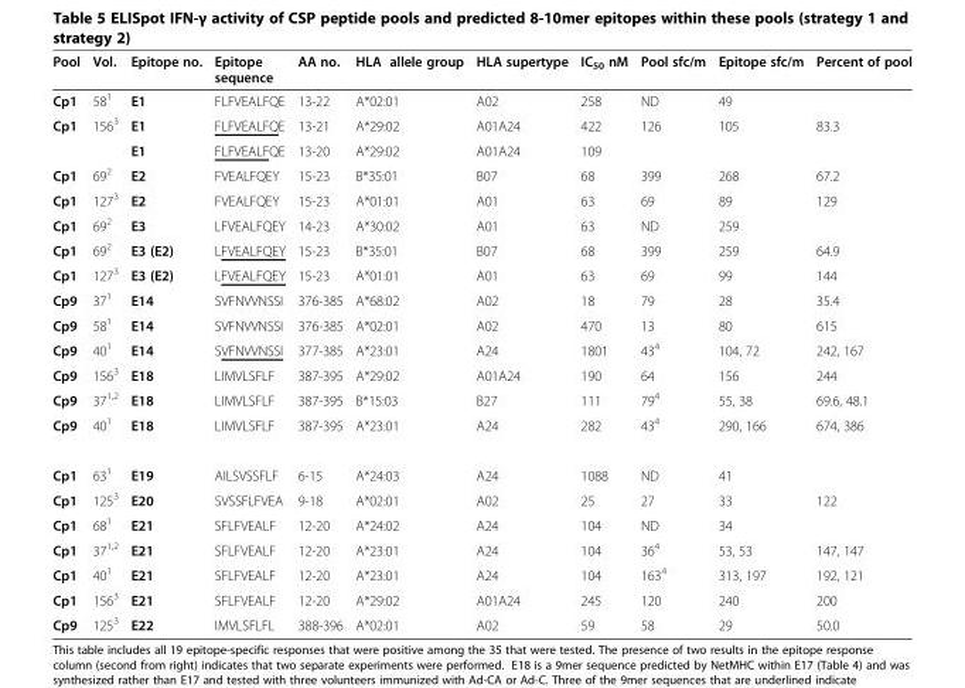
<table><thead><tr><td>Pool</td><td>Vol.</td><td>Epitope no.</td><td>Epitope sequence</td><td>AA no.</td><td>HLA allele group</td><td>HLA supertype</td><td>IC<sub>50</sub> nM</td><td>Pool sfc/m</td><td>Epitope sfc/m</td><td>Percent of pool</td></tr></thead><tbody><tr><td>Cp1</td><td>58<sup>1</sup></td><td>E1</td><td>FLFVEALFQE</td><td>13-22</td><td>A*02:01</td><td>A02</td><td>258</td><td>ND</td><td>49</td><td></td></tr><tr><td rowspan="2">Cp1</td><td>156<sup>3</sup></td><td>E1</td><td>FLFVEALFQE</td><td>13-21</td><td>A*29:02</td><td>A01A24</td><td>422</td><td>126</td><td>105</td><td>83.3</td></tr><tr><td></td><td>E1</td><td>FLFVEALFQE</td><td>13-20</td><td>A*29:02</td><td>A01A24</td><td>109</td><td></td><td></td><td></td></tr><tr><td>Cp1</td><td>69<sup>2</sup></td><td>E2</td><td>FVEALFQEY</td><td>15-23</td><td>B*35:01</td><td>B07</td><td>68</td><td>399</td><td>268</td><td>67.2</td></tr><tr><td>Cp1</td><td>127<sup>3</sup></td><td>E2</td><td>FVEALFQEY</td><td>15-23</td><td>A*01:01</td><td>A01</td><td>63</td><td>69</td><td>89</td><td>129</td></tr><tr><td>Cp1</td><td>69<sup>2</sup></td><td>E3</td><td>LFVEALFQEY</td><td>14-23</td><td>A*30:02</td><td>A01</td><td>63</td><td>ND</td><td>259</td><td></td></tr><tr><td>Cp1</td><td>69<sup>2</sup></td><td>E3 (E2)</td><td>LFVEALFQEY</td><td>15-23</td><td>B*35:01</td><td>B07</td><td>68</td><td>399</td><td>259</td><td>64.9</td></tr><tr><td>Cp1</td><td>127<sup>3</sup></td><td>E3 (E2)</td><td>LFVEALFQEY</td><td>15-23</td><td>A*01:01</td><td>A01</td><td>63</td><td>69</td><td>99</td><td>144</td></tr><tr><td>Cp9</td><td>37<sup>1</sup></td><td>E14</td><td>SVFNVVNSSI</td><td>376-385</td><td>A*68:02</td><td>A02</td><td>18</td><td>79</td><td>28</td><td>35.4</td></tr><tr><td>Cp9</td><td>58<sup>1</sup></td><td>E14</td><td>SVFNVVNSSI</td><td>376-385</td><td>A*02:01</td><td>A02</td><td>470</td><td>13</td><td>80</td><td>615</td></tr><tr><td>Cp9</td><td>40<sup>1</sup></td><td>E14</td><td>SVFNVVNSSI</td><td>377-385</td><td>A*23:01</td><td>A24</td><td>1801</td><td>43<sup>4</sup></td><td>104, 72</td><td>242, 167</td></tr><tr><td>Cp9</td><td>156<sup>3</sup></td><td>E18</td><td>LIMVLSFLF</td><td>387-395</td><td>A*29:02</td><td>A01A24</td><td>190</td><td>64</td><td>156</td><td>244</td></tr><tr><td>Cp9</td><td>37<sup>1,2</sup></td><td>E18</td><td>LIMVLSFLF</td><td>387-395</td><td>B*15:03</td><td>B27</td><td>111</td><td>79<sup>4</sup></td><td>55, 38</td><td>69.6, 48.1</td></tr><tr><td>Cp9</td><td>40<sup>1</sup></td><td>E18</td><td>LIMVLSFLF</td><td>387-395</td><td>A*23:01</td><td>A24</td><td>282</td><td>43<sup>4</sup></td><td>290, 166</td><td>674, 386</td></tr><tr><td>Cp1</td><td>63<sup>1</sup></td><td>E19</td><td>AILSVSSFLF</td><td>6-15</td><td>A*24:03</td><td>A24</td><td>1088</td><td>ND</td><td>41</td><td></td></tr><tr><td>Cp1</td><td>125<sup>3</sup></td><td>E20</td><td>SVSSFLFVEA</td><td>9-18</td><td>A*02:01</td><td>A02</td><td>25</td><td>27</td><td>33</td><td>122</td></tr><tr><td>Cp1</td><td>68<sup>1</sup></td><td>E21</td><td>SFLFVEALF</td><td>12-20</td><td>A*24:02</td><td>A24</td><td>104</td><td>ND</td><td>34</td><td></td></tr><tr><td>Cp1</td><td>37<sup>1,2</sup></td><td>E21</td><td>SFLFVEALF</td><td>12-20</td><td>A*23:01</td><td>A24</td><td>104</td><td>36<sup>4</sup></td><td>53, 53</td><td>147, 147</td></tr><tr><td>Cp1</td><td>40<sup>1</sup></td><td>E21</td><td>SFLFVEALF</td><td>12-20</td><td>A*23:01</td><td>A24</td><td>104</td><td>163<sup>4</sup></td><td>313, 197</td><td>192, 121</td></tr><tr><td>Cp1</td><td>156<sup>3</sup></td><td>E21</td><td>SFLFVEALF</td><td>12-20</td><td>A*29:02</td><td>A01A24</td><td>245</td><td>120</td><td>240</td><td>200</td></tr><tr><td>Cp9</td><td>125<sup>3</sup></td><td>E22</td><td>IMVLSFLFL</td><td>388-396</td><td>A*02:01</td><td>A02</td><td>59</td><td>58</td><td>29</td><td>50.0</td></tr></tbody></table>